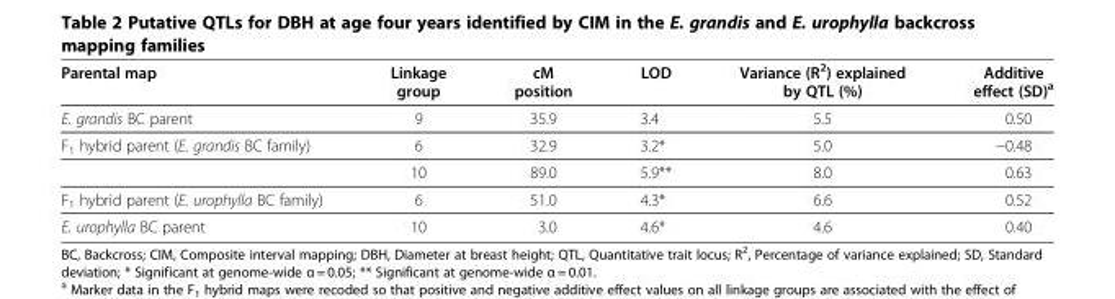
<table><thead><tr><td>Parental map</td><td>Linkage group</td><td>cM position</td><td>LOD</td><td>Variance (R<sup>2</sup>) explained by QTL (%)</td><td>Additive effect (SD)<sup>a</sup></td></tr></thead><tbody><tr><td>E. grandis BC parent</td><td>9</td><td>35.9</td><td>3.4</td><td>5.5</td><td>0.50</td></tr><tr><td rowspan="2">F<sub>1</sub> hybrid parent (E. grandis BC family)</td><td>6</td><td>32.9</td><td>3.2*</td><td>5.0</td><td>−0.48</td></tr><tr><td>10</td><td>89.0</td><td>5.9**</td><td>8.0</td><td>0.63</td></tr><tr><td>F<sub>1</sub> hybrid parent (E. urophylla BC family)</td><td>6</td><td>51.0</td><td>4.3*</td><td>6.6</td><td>0.52</td></tr><tr><td>E. urophylla BC parent</td><td>10</td><td>3.0</td><td>4.6*</td><td>4.6</td><td>0.40</td></tr></tbody></table>